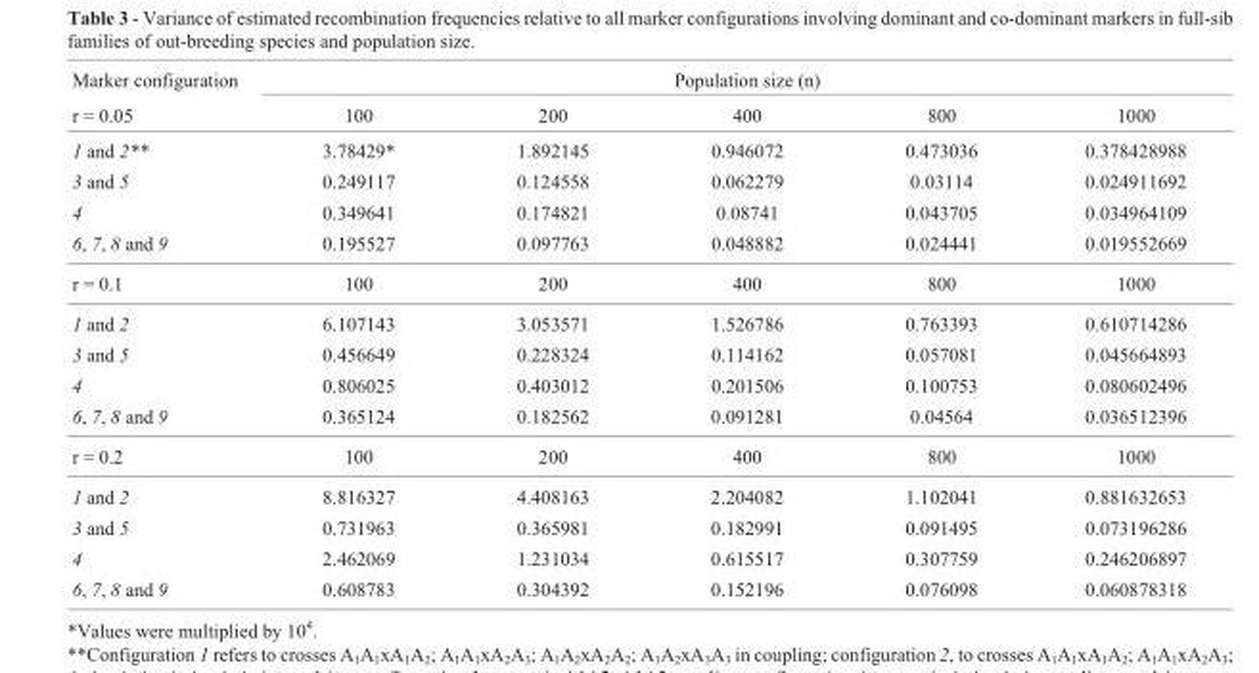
<table><thead><tr><td rowspan="2">Marker configuration r = 0.05</td><td colspan="5">Population size (n)</td></tr><tr><td>100</td><td>200</td><td>400</td><td>800</td><td>1000</td></tr></thead><tbody><tr><td>1 and 2**</td><td>3.78429*</td><td>1.892145</td><td>0.946072</td><td>0.473036</td><td>0.378428988</td></tr><tr><td>3 and 5</td><td>0.249117</td><td>0.124558</td><td>0.062279</td><td>0.03114</td><td>0.024911692</td></tr><tr><td>4</td><td>0.349641</td><td>0.174821</td><td>0.08741</td><td>0.043705</td><td>0.034964109</td></tr><tr><td>6, 7, 8 and 9</td><td>0.195527</td><td>0.097763</td><td>0.048882</td><td>0.024441</td><td>0.019552669</td></tr><tr><td>r = 0.1</td><td>100</td><td>200</td><td>400</td><td>800</td><td>1000</td></tr><tr><td>1 and 2</td><td>6.107143</td><td>3.053571</td><td>1.526786</td><td>0.763393</td><td>0.610714286</td></tr><tr><td>3 and 5</td><td>0.456649</td><td>0.228324</td><td>0.114162</td><td>0.057081</td><td>0.045664893</td></tr><tr><td>4</td><td>0.806025</td><td>0.403012</td><td>0.201506</td><td>0.100753</td><td>0.080602496</td></tr><tr><td>6, 7, 8 and 9</td><td>0.365124</td><td>0.182562</td><td>0.091281</td><td>0.04564</td><td>0.036512396</td></tr><tr><td>r = 0.2</td><td>100</td><td>200</td><td>400</td><td>800</td><td>1000</td></tr><tr><td>1 and 2</td><td>8.816327</td><td>4.408163</td><td>2.204082</td><td>1.102041</td><td>0.881632653</td></tr><tr><td>3 and 5</td><td>0.731963</td><td>0.365981</td><td>0.182991</td><td>0.091495</td><td>0.073196286</td></tr><tr><td>4</td><td>2.462069</td><td>1.231034</td><td>0.615517</td><td>0.307759</td><td>0.246206897</td></tr><tr><td>6, 7, 8 and 9</td><td>0.608783</td><td>0.304392</td><td>0.152196</td><td>0.076098</td><td>0.060878318</td></tr></tbody></table>